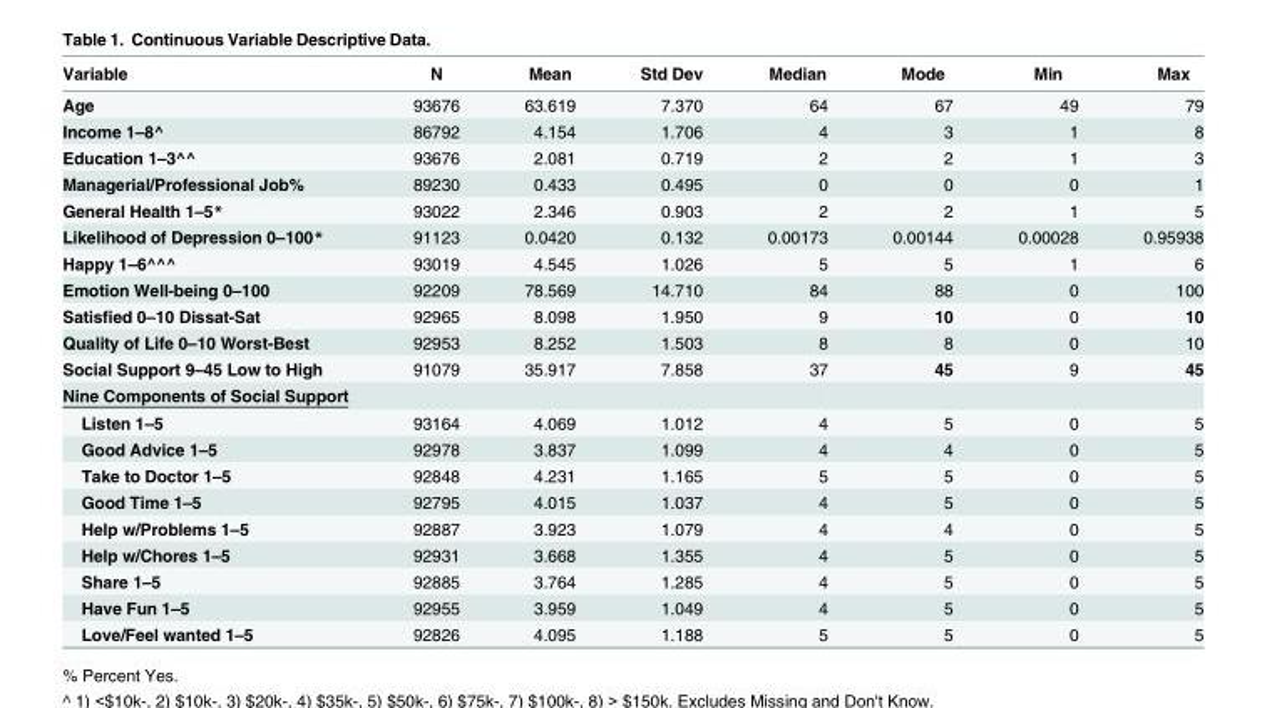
<table><thead><tr><td>Variable</td><td>N</td><td>Mean</td><td>Std Dev</td><td>Median</td><td>Mode</td><td>Min</td><td>Max</td></tr></thead><tbody><tr><td>Age</td><td>93676</td><td>63.619</td><td>7.370</td><td>64</td><td>67</td><td>49</td><td>79</td></tr><tr><td>Income 1–8^</td><td>86792</td><td>4.154</td><td>1.706</td><td>4</td><td>3</td><td>1</td><td>8</td></tr><tr><td>Education 1–3^^</td><td>93676</td><td>2.081</td><td>0.719</td><td>2</td><td>2</td><td>1</td><td>3</td></tr><tr><td>Managerial/Professional Job%</td><td>89230</td><td>0.433</td><td>0.495</td><td>0</td><td>0</td><td>0</td><td>1</td></tr><tr><td>General Health 1–5*</td><td>93022</td><td>2.346</td><td>0.903</td><td>2</td><td>2</td><td>1</td><td>5</td></tr><tr><td>Likelihood of Depression 0–100*</td><td>91123</td><td>0.0420</td><td>0.132</td><td>0.00173</td><td>0.00144</td><td>0.00028</td><td>0.95938</td></tr><tr><td>Happy 1–6^^^</td><td>93019</td><td>4.545</td><td>1.026</td><td>5</td><td>5</td><td>1</td><td>6</td></tr><tr><td>Emotion Well-being 0–100</td><td>92209</td><td>78.569</td><td>14.710</td><td>84</td><td>88</td><td>0</td><td>100</td></tr><tr><td>Satisfied 0–10 Dissat-Sat</td><td>92965</td><td>8.098</td><td>1.950</td><td>9</td><td>10</td><td>0</td><td>10</td></tr><tr><td>Quality of Life 0–10 Worst-Best</td><td>92953</td><td>8.252</td><td>1.503</td><td>8</td><td>8</td><td>0</td><td>10</td></tr><tr><td>Social Support 9–45 Low to High</td><td>91079</td><td>35.917</td><td>7.858</td><td>37</td><td>45</td><td>9</td><td>45</td></tr><tr><td colspan="8">Nine Components of Social Support</td></tr><tr><td>Listen 1–5</td><td>93164</td><td>4.069</td><td>1.012</td><td>4</td><td>5</td><td>0</td><td>5</td></tr><tr><td>Good Advice 1–5</td><td>92978</td><td>3.837</td><td>1.099</td><td>4</td><td>4</td><td>0</td><td>5</td></tr><tr><td>Take to Doctor 1–5</td><td>92848</td><td>4.231</td><td>1.165</td><td>5</td><td>5</td><td>0</td><td>5</td></tr><tr><td>Good Time 1–5</td><td>92795</td><td>4.015</td><td>1.037</td><td>4</td><td>5</td><td>0</td><td>5</td></tr><tr><td>Help w/Problems 1–5</td><td>92887</td><td>3.923</td><td>1.079</td><td>4</td><td>4</td><td>0</td><td>5</td></tr><tr><td>Help w/Chores 1–5</td><td>92931</td><td>3.668</td><td>1.355</td><td>4</td><td>5</td><td>0</td><td>5</td></tr><tr><td>Share 1–5</td><td>92885</td><td>3.764</td><td>1.285</td><td>4</td><td>5</td><td>0</td><td>5</td></tr><tr><td>Have Fun 1–5</td><td>92955</td><td>3.959</td><td>1.049</td><td>4</td><td>5</td><td>0</td><td>5</td></tr><tr><td>Love/Feel wanted 1–5</td><td>92826</td><td>4.095</td><td>1.188</td><td>5</td><td>5</td><td>0</td><td>5</td></tr></tbody></table>